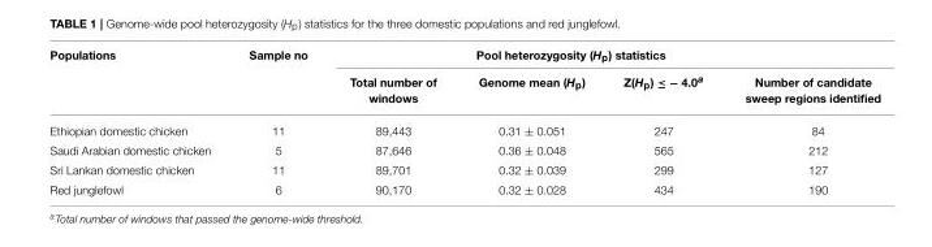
<table><thead><tr><td rowspan="2">Populations</td><td rowspan="2">Sample no</td><td colspan="4">Pool heterozygosity (H<sub>p</sub>) statistics</td></tr><tr><td>Total number of windows</td><td>Genome mean (H<sub>p</sub>)</td><td>Z(H<sub>p</sub>) ≤ − 4.0<sup>a</sup></td><td>Number of candidate sweep regions identified</td></tr></thead><tbody><tr><td>Ethiopian domestic chicken</td><td>11</td><td>89,443</td><td>0.31 ± 0.051</td><td>247</td><td>84</td></tr><tr><td>Saudi Arabian domestic chicken</td><td>5</td><td>87,646</td><td>0.36 ± 0.048</td><td>565</td><td>212</td></tr><tr><td>Sri Lankan domestic chicken</td><td>11</td><td>89,701</td><td>0.32 ± 0.039</td><td>299</td><td>127</td></tr><tr><td>Red junglefowl</td><td>6</td><td>90,170</td><td>0.32 ± 0.028</td><td>434</td><td>190</td></tr></tbody></table>